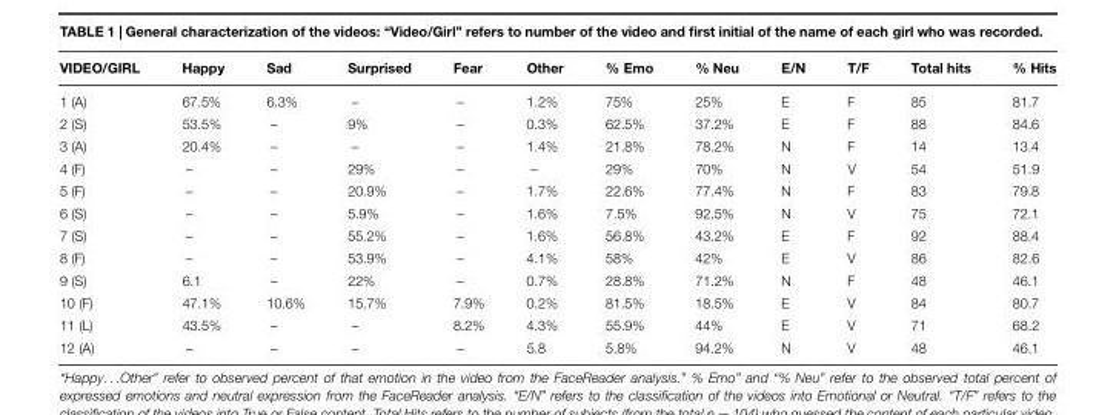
<table><thead><tr><td>VIDEO/GIRL</td><td>Happy</td><td>Sad</td><td>Surprised</td><td>Fear</td><td>Other</td><td>% Emo</td><td>% Neu</td><td>E/N</td><td>T/F</td><td>Total hits</td><td>% Hits</td></tr></thead><tbody><tr><td>1 (A)</td><td>67.5%</td><td>6.3%</td><td>–</td><td>–</td><td>1.2%</td><td>75%</td><td>25%</td><td>E</td><td>F</td><td>85</td><td>81.7</td></tr><tr><td>2 (S)</td><td>53.5%</td><td>–</td><td>9%</td><td>–</td><td>0.3%</td><td>62.5%</td><td>37.2%</td><td>E</td><td>F</td><td>88</td><td>84.6</td></tr><tr><td>3 (A)</td><td>20.4%</td><td>–</td><td>–</td><td>–</td><td>1.4%</td><td>21.8%</td><td>78.2%</td><td>N</td><td>F</td><td>14</td><td>13.4</td></tr><tr><td>4 (F)</td><td>–</td><td>–</td><td>29%</td><td>–</td><td>–</td><td>29%</td><td>70%</td><td>N</td><td>V</td><td>54</td><td>51.9</td></tr><tr><td>5 (F)</td><td>–</td><td>–</td><td>20.9%</td><td>–</td><td>1.7%</td><td>22.6%</td><td>77.4%</td><td>N</td><td>F</td><td>83</td><td>79.8</td></tr><tr><td>6 (S)</td><td>–</td><td>–</td><td>5.9%</td><td>–</td><td>1.6%</td><td>7.5%</td><td>92.5%</td><td>N</td><td>V</td><td>75</td><td>72.1</td></tr><tr><td>7 (S)</td><td>–</td><td>–</td><td>55.2%</td><td>–</td><td>1.6%</td><td>56.8%</td><td>43.2%</td><td>E</td><td>F</td><td>92</td><td>88.4</td></tr><tr><td>8 (F)</td><td>–</td><td>–</td><td>53.9%</td><td>–</td><td>4.1%</td><td>58%</td><td>42%</td><td>E</td><td>V</td><td>86</td><td>82.6</td></tr><tr><td>9 (S)</td><td>6.1</td><td>–</td><td>22%</td><td>–</td><td>0.7%</td><td>28.8%</td><td>71.2%</td><td>N</td><td>F</td><td>48</td><td>46.1</td></tr><tr><td>10 (F)</td><td>47.1%</td><td>10.6%</td><td>15.7%</td><td>7.9%</td><td>0.2%</td><td>81.5%</td><td>18.5%</td><td>E</td><td>V</td><td>84</td><td>80.7</td></tr><tr><td>11 (L)</td><td>43.5%</td><td>–</td><td>–</td><td>8.2%</td><td>4.3%</td><td>55.9%</td><td>44%</td><td>E</td><td>V</td><td>71</td><td>68.2</td></tr><tr><td>12 (A)</td><td>–</td><td>–</td><td>–</td><td>–</td><td>5.8</td><td>5.8%</td><td>94.2%</td><td>N</td><td>V</td><td>48</td><td>46.1</td></tr></tbody></table>